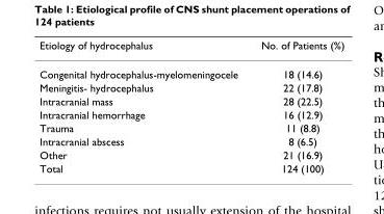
<table><thead><tr><td>Etiology of hydrocephalus</td><td>No. of Patients (%)</td></tr></thead><tbody><tr><td>Congenital hydrocephalus-myelomeningocele</td><td>18 (14.6)</td></tr><tr><td>Meningitis- hydrocephalus</td><td>22 (17.8)</td></tr><tr><td>Intracranial mass</td><td>28 (22.5)</td></tr><tr><td>Intracranial hemorrhage</td><td>16 (12.9)</td></tr><tr><td>Trauma</td><td>11 (8.8)</td></tr><tr><td>Intracranial abscess</td><td>8 (6.5)</td></tr><tr><td>Other</td><td>21 (16.9)</td></tr><tr><td>Total</td><td>124 (100)</td></tr></tbody></table>